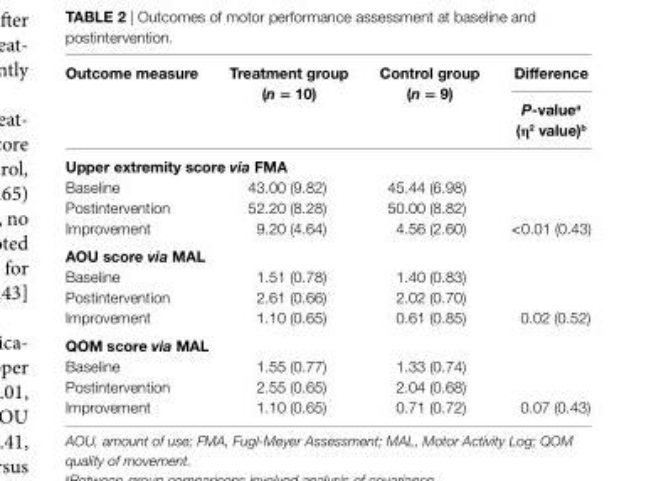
<table><thead><tr><td rowspan="2">Outcome measure</td><td rowspan="2">Treatment group (n = 10)</td><td rowspan="2">Control group (n = 9)</td><td rowspan="2">Difference P-value<sup>a</sup> (η<sup>2</sup> value)<sup>b</sup></td></tr><tr></tr></thead><tbody><tr><td colspan="4">Upper extremity score via FMa</td></tr><tr><td>Baseline</td><td>43.00 (9.82)</td><td>45.44 (6.98)</td><td></td></tr><tr><td>Postintervention</td><td>52.20 (8.28)</td><td>50.00 (8.82)</td><td></td></tr><tr><td>Improvement</td><td>9.20 (4.64)</td><td>4.56 (2.60)</td><td>&lt;0.01 (0.43)</td></tr><tr><td colspan="4">aOU score via Mal</td></tr><tr><td>Baseline</td><td>1.51 (0.78)</td><td>1.40 (0.83)</td><td></td></tr><tr><td>Postintervention</td><td>2.61 (0.66)</td><td>2.02 (0.70)</td><td></td></tr><tr><td>Improvement</td><td>1.10 (0.65)</td><td>0.61 (0.85)</td><td>0.02 (0.52)</td></tr><tr><td colspan="4">QOM score via Mal</td></tr><tr><td>Baseline</td><td>1.55 (0.77)</td><td>1.33 (0.74)</td><td></td></tr><tr><td>Postintervention</td><td>2.55 (0.65)</td><td>2.04 (0.68)</td><td></td></tr><tr><td>Improvement</td><td>1.10 (0.65)</td><td>0.71 (0.72)</td><td>0.07 (0.43)</td></tr></tbody></table>